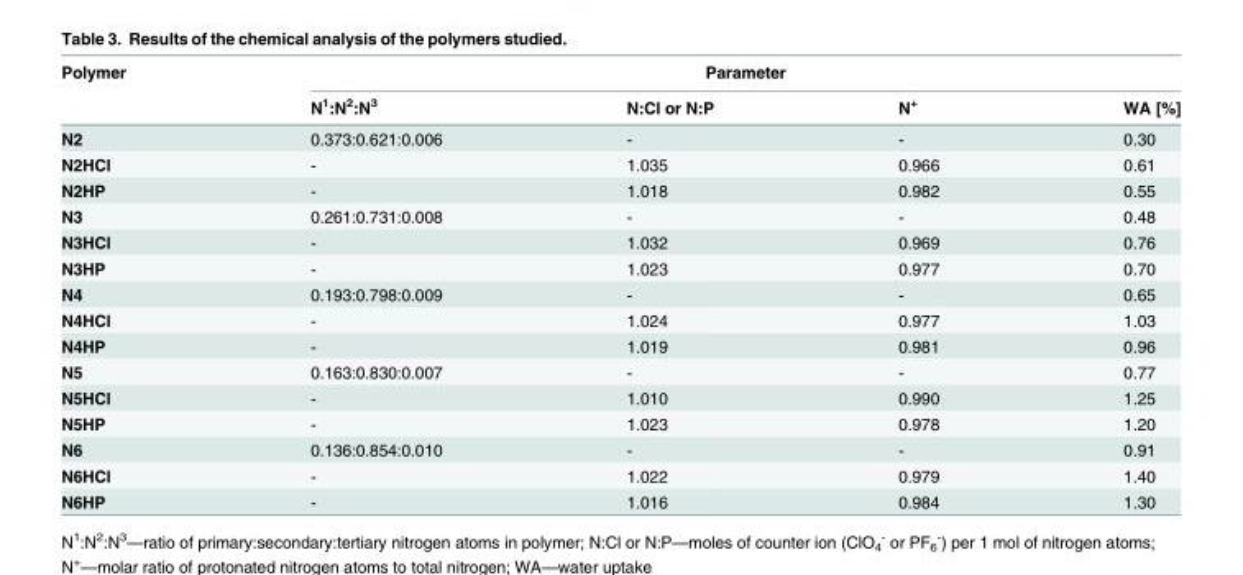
<table><thead><tr><td rowspan="2">Polymer</td><td colspan="4">Parameter</td></tr><tr><td>N<sup>1</sup>:N<sup>2</sup>:N<sup>3</sup></td><td>N:Cl or N:P</td><td>N<sup>+</sup></td><td>WA [%]</td></tr></thead><tbody><tr><td>N2</td><td>0.373:0.621:0.006</td><td>-</td><td>-</td><td>0.30</td></tr><tr><td>N2HCl</td><td>-</td><td>1.035</td><td>0.966</td><td>0.61</td></tr><tr><td>N2HP</td><td>-</td><td>1.018</td><td>0.982</td><td>0.55</td></tr><tr><td>N3</td><td>0.261:0.731:0.008</td><td>-</td><td>-</td><td>0.48</td></tr><tr><td>N3HCl</td><td>-</td><td>1.032</td><td>0.969</td><td>0.76</td></tr><tr><td>N3HP</td><td>-</td><td>1.023</td><td>0.977</td><td>0.70</td></tr><tr><td>N4</td><td>0.193:0.798:0.009</td><td>-</td><td>-</td><td>0.65</td></tr><tr><td>N4HCl</td><td>-</td><td>1.024</td><td>0.977</td><td>1.03</td></tr><tr><td>N4HP</td><td>-</td><td>1.019</td><td>0.981</td><td>0.96</td></tr><tr><td>N5</td><td>0.163:0.830:0.007</td><td>-</td><td>-</td><td>0.77</td></tr><tr><td>N5HCl</td><td>-</td><td>1.010</td><td>0.990</td><td>1.25</td></tr><tr><td>N5HP</td><td>-</td><td>1.023</td><td>0.978</td><td>1.20</td></tr><tr><td>N6</td><td>0.136:0.854:0.010</td><td>-</td><td>-</td><td>0.91</td></tr><tr><td>N6HCl</td><td>-</td><td>1.022</td><td>0.979</td><td>1.40</td></tr><tr><td>N6HP</td><td>-</td><td>1.016</td><td>0.984</td><td>1.30</td></tr></tbody></table>